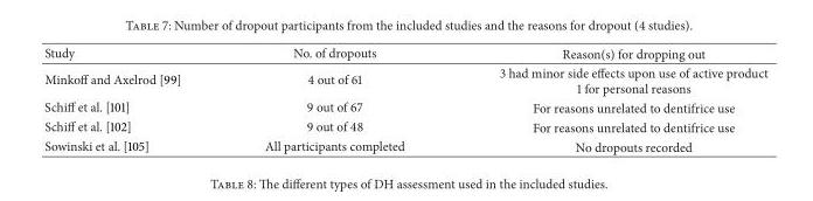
<table><thead><tr><td>Study</td><td>No. of dropouts</td><td>Reason(s) for dropping out</td></tr></thead><tbody><tr><td>Minkoff and Axelrod [99]</td><td>4 out of 61</td><td>3 had minor side effects upon use of active product 1 for personal reasons</td></tr><tr><td>Schiff et al. [101]</td><td>9 out of 67</td><td>For reasons unrelated to dentifrice use</td></tr><tr><td>Schiff et al. [102]</td><td>9 out of 48</td><td>For reasons unrelated to dentifrice use</td></tr><tr><td>Sowinski et al. [105]</td><td>All participants completed</td><td>No dropouts recorded</td></tr></tbody></table>